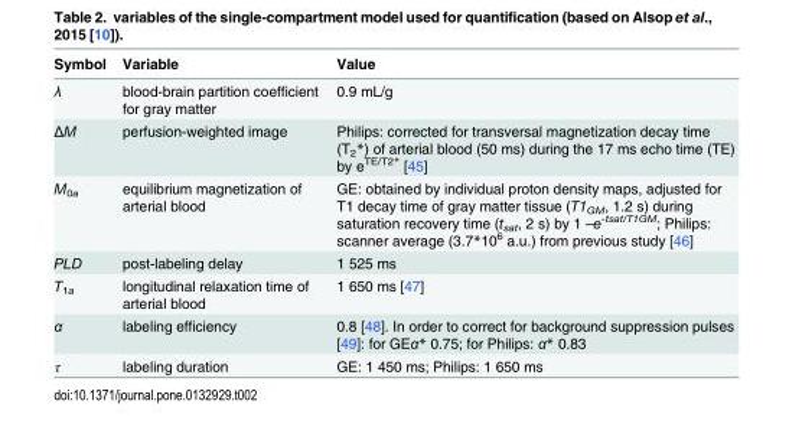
<table><thead><tr><td>Symbol</td><td>Variable</td><td>Value</td></tr></thead><tbody><tr><td>λ</td><td>blood-brain partition coefficient for gray matter</td><td>0.9 mL/g</td></tr><tr><td>ΔM</td><td>perfusion-weighted image</td><td>Philips: corrected for transversal magnetization decay time (T<sub>2</sub>*) of arterial blood (50 ms) during the 17 ms echo time (TE) by e<sup>TE/T2*</sup> [45]</td></tr><tr><td>M<sub>0a</sub></td><td>equilibrium magnetization of arterial blood</td><td>GE: obtained by individual proton density maps, adjusted for T1 decay time of gray matter tissue (T1<sub>GM</sub>, 1.2 s) during saturation recovery time (t<sub>sat</sub>, 2 s) by 1 –e<sup>-tsat/T1GM</sup>; Philips: scanner average (3.7*10<sup>6</sup> a.u.) from previous study [46]</td></tr><tr><td>PLD</td><td>post-labeling delay</td><td>1 525 ms</td></tr><tr><td>T<sub>1a</sub></td><td>longitudinal relaxation time of arterial blood</td><td>1 650 ms [47]</td></tr><tr><td>α</td><td>labeling efficiency</td><td>0.8 [48]. In order to correct for background suppression pulses [49]: for GEα* 0.75; for Philips: α* 0.83</td></tr><tr><td>τ</td><td>labeling duration</td><td>GE: 1 450 ms; Philips: 1 650 ms</td></tr></tbody></table>